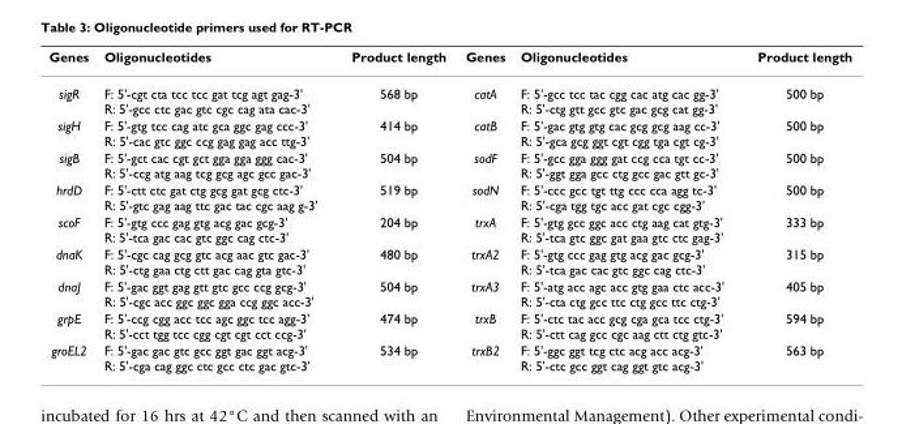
<table><thead><tr><td>Genes</td><td>Oligonucleotides</td><td>Product length</td><td>Genes</td><td>Oligonucleotides</td><td>Product length</td></tr></thead><tbody><tr><td>sigR</td><td>F: 5&#x27;-cgt cta tcc tcc gat tcg agt gag-3&#x27; R: 5&#x27;-gcc ctc gac gtc cgc cag ata cac-3&#x27;</td><td>568 bp</td><td>catA</td><td>F: 5&#x27;-gcc tcc tac cgg cac atg cac gg-3&#x27; R: 5&#x27;-ctg gtt gcc gtc gac gcg cat gg-3&#x27;</td><td>500 bp</td></tr><tr><td>sigH</td><td>F: 5&#x27;-gtg tcc cag atc gca ggc gag ccc-3&#x27; R: 5&#x27;-cac gtc ggc ccg gag gag acc ttg-3&#x27;</td><td>414 bp</td><td>catB</td><td>F: 5&#x27;-gac gtg gtg cac gcg gcg aag cc-3&#x27; R: 5&#x27;-gca gcg ggt cgt cgg tga cgt cg-3&#x27;</td><td>500 bp</td></tr><tr><td>sigB</td><td>F: 5&#x27;-gct cac cgt gct gga gga ggg cac-3&#x27; R: 5&#x27;-ccg atg aag tcg gcg agc gcc gac-3&#x27;</td><td>504 bp</td><td>sodF</td><td>F: 5&#x27;-gcc gga ggg gat ccg cca tgt cc-3&#x27; R: 5&#x27;-ggt gga gcc ctg gcc gac gtt gc-3&#x27;</td><td>500 bp</td></tr><tr><td>hrdD</td><td>F: 5&#x27;-ctt ctc gat ctg gcg gat gcg ctc-3&#x27; R: 5&#x27;-gtc gag aag ttc gac tac cgc aag g-3&#x27;</td><td>519 bp</td><td>sodN</td><td>F: 5&#x27;-ccc gcc tgt ttg ccc cca agg tc-3&#x27; R: 5&#x27;-cga tgg tgc acc gat cgc cgg-3&#x27;</td><td>500 bp</td></tr><tr><td>scoF</td><td>F: 5&#x27;-gtg ccc gag gtg acg gac gcg-3&#x27; R: 5&#x27;-tca gac cac gtc ggc cag ctc-3&#x27;</td><td>204 bp</td><td>trxA</td><td>F: 5&#x27;-gtg gcc ggc acc ctg aag cat gtg-3&#x27; R: 5&#x27;-tca gtc ggc gat gaa gtc ctc gag-3&#x27;</td><td>333 bp</td></tr><tr><td>dnaK</td><td>F: 5&#x27;-cgc cag gcg gtc acg aac gtc gac-3&#x27; R: 5&#x27;-ctg gaa ctg ctt gac cag gta gtc-3&#x27;</td><td>480 bp</td><td>trxA2</td><td>F: 5&#x27;-gtg ccc gag gtg acg gac gcg-3&#x27; R: 5&#x27;-tca gac cac gtc ggc cag ctc-3&#x27;</td><td>315 bp</td></tr><tr><td>dnaJ</td><td>F: 5&#x27;-gac ggt gag gtt gtc gcc ccg gcg-3&#x27; R: 5&#x27;-cgc acc ggc ggc gga ccg ggc acc-3&#x27;</td><td>504 bp</td><td>trxA3</td><td>F: 5&#x27;-atg acc agc acc gtg gaa ctc acc-3&#x27; R: 5&#x27;-cta ctg gcc ttc ctg gcc ttc ctg-3&#x27;</td><td>405 bp</td></tr><tr><td>grpE</td><td>F: 5&#x27;-ccg cgg acc tcc agc ggc tcc agg-3&#x27; R: 5&#x27;-cct tgg tcc cgg cgt cgt cct ccg-3&#x27;</td><td>474 bp</td><td>trxB</td><td>F: 5&#x27;-ctc tac acc gcg cga gca tcc ctg-3&#x27; R: 5&#x27;-ctt cag gcc cgc aag ctt ctg gtc-3&#x27;</td><td>594 bp</td></tr><tr><td>groEL2</td><td>F: 5&#x27;-gac gac gtc gcc ggt gac ggt acg-3&#x27; R: 5&#x27;-cga cag ggc ctc gcc ctc gac gtc-3&#x27;</td><td>534 bp</td><td>trxB2</td><td>F: 5&#x27;-ggc ggt tcg ctc acg acc acg-3&#x27; R: 5&#x27;-ctc gcc ggt cag ggt gtc acg-3&#x27;</td><td>563 bp</td></tr></tbody></table>